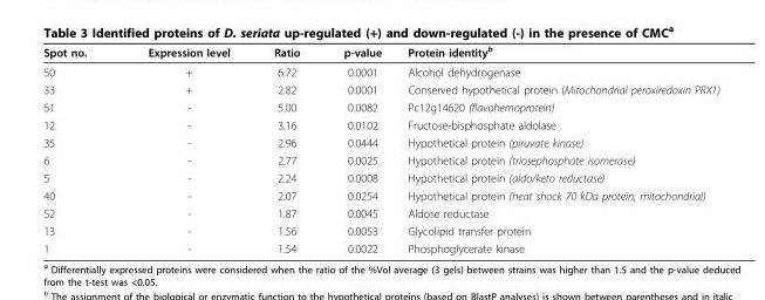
<table><thead><tr><td>Spot no.</td><td>Expression level</td><td>Ratio</td><td>p-value</td><td>Protein identity<sup>b</sup></td></tr></thead><tbody><tr><td>50</td><td>+</td><td>6.72</td><td>0.0001</td><td>Alcohol dehydrogenase</td></tr><tr><td>33</td><td>+</td><td>2.82</td><td>0.0001</td><td>Conserved hypothetical protein (Mitochondrial peroxiredoxin PRX1)</td></tr><tr><td>51</td><td>-</td><td>5.00</td><td>0.0082</td><td>Pc12g14620 (flavohemoprotein)</td></tr><tr><td>12</td><td>-</td><td>3.16</td><td>0.0102</td><td>Fructose-bisphosphate aldolase</td></tr><tr><td>35</td><td>-</td><td>2.96</td><td>0.0444</td><td>Hypothetical protein (piruvate kinase)</td></tr><tr><td>6</td><td>-</td><td>2.77</td><td>0.0025</td><td>Hypothetical protein (triosephosphate isomerase)</td></tr><tr><td>5</td><td>-</td><td>2.24</td><td>0.0008</td><td>Hypothetical protein (aldo/keto reductase)</td></tr><tr><td>40</td><td>-</td><td>2.07</td><td>0.0254</td><td>Hypothetical protein (heat shock 70 kDa protein, mitochondrial)</td></tr><tr><td>52</td><td>-</td><td>1.87</td><td>0.0045</td><td>Aldose reductase</td></tr><tr><td>13</td><td>-</td><td>1.56</td><td>0.0053</td><td>Glycolipid transfer protein</td></tr><tr><td>1</td><td>-</td><td>1.54</td><td>0.0022</td><td>Phosphoglycerate kinase</td></tr></tbody></table>